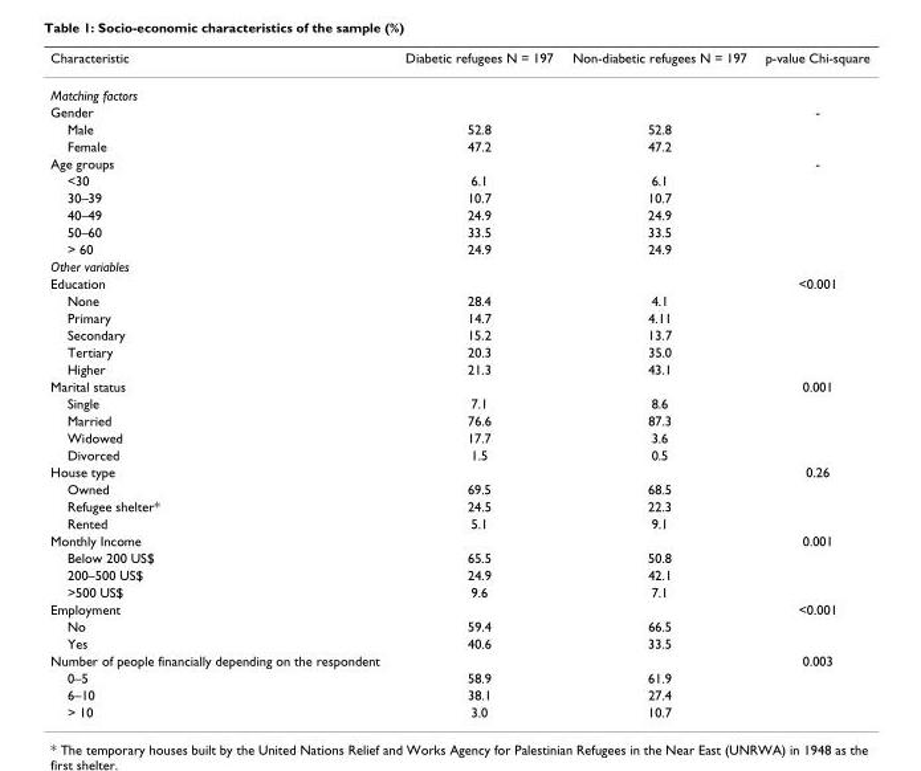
<table><thead><tr><td>Characteristic</td><td>Diabetic refugees N = 197</td><td>Non-diabetic refugees N = 197</td><td>p-value Chi-square</td></tr></thead><tbody><tr><td colspan="4">Matching factors</td></tr><tr><td>Gender</td><td></td><td></td><td>-</td></tr><tr><td>Male</td><td>52.8</td><td>52.8</td><td></td></tr><tr><td>Female</td><td>47.2</td><td>47.2</td><td></td></tr><tr><td>Age groups</td><td></td><td></td><td>-</td></tr><tr><td>&lt;30</td><td>6.1</td><td>6.1</td><td></td></tr><tr><td>30–39</td><td>10.7</td><td>10.7</td><td></td></tr><tr><td>40–49</td><td>24.9</td><td>24.9</td><td></td></tr><tr><td>50–60</td><td>33.5</td><td>33.5</td><td></td></tr><tr><td>&gt; 60</td><td>24.9</td><td>24.9</td><td></td></tr><tr><td colspan="4">Other variables</td></tr><tr><td>Education</td><td></td><td></td><td>&lt;0.001</td></tr><tr><td>None</td><td>28.4</td><td>4.1</td><td></td></tr><tr><td>Primary</td><td>14.7</td><td>4.11</td><td></td></tr><tr><td>Secondary</td><td>15.2</td><td>13.7</td><td></td></tr><tr><td>Tertiary</td><td>20.3</td><td>35.0</td><td></td></tr><tr><td>Higher</td><td>21.3</td><td>43.1</td><td></td></tr><tr><td>Marital status</td><td></td><td></td><td>0.001</td></tr><tr><td>Single</td><td>7.1</td><td>8.6</td><td></td></tr><tr><td>Married</td><td>76.6</td><td>87.3</td><td></td></tr><tr><td>Widowed</td><td>17.7</td><td>3.6</td><td></td></tr><tr><td>Divorced</td><td>1.5</td><td>0.5</td><td></td></tr><tr><td>House type</td><td></td><td></td><td>0.26</td></tr><tr><td>Owned</td><td>69.5</td><td>68.5</td><td></td></tr><tr><td>Refugee shelter*</td><td>24.5</td><td>22.3</td><td></td></tr><tr><td>Rented</td><td>5.1</td><td>9.1</td><td></td></tr><tr><td>Monthly Income</td><td></td><td></td><td>0.001</td></tr><tr><td>Below 200 US$</td><td>65.5</td><td>50.8</td><td></td></tr><tr><td>200–500 US$</td><td>24.9</td><td>42.1</td><td></td></tr><tr><td>&gt;500 US$</td><td>9.6</td><td>7.1</td><td></td></tr><tr><td>Employment</td><td></td><td></td><td>&lt;0.001</td></tr><tr><td>No</td><td>59.4</td><td>66.5</td><td></td></tr><tr><td>Yes</td><td>40.6</td><td>33.5</td><td></td></tr><tr><td>Number of people financially depending on the respondent</td><td></td><td></td><td>0.003</td></tr><tr><td>0–5</td><td>58.9</td><td>61.9</td><td></td></tr><tr><td>6–10</td><td>38.1</td><td>27.4</td><td></td></tr><tr><td>&gt; 10</td><td>3.0</td><td>10.7</td><td></td></tr></tbody></table>